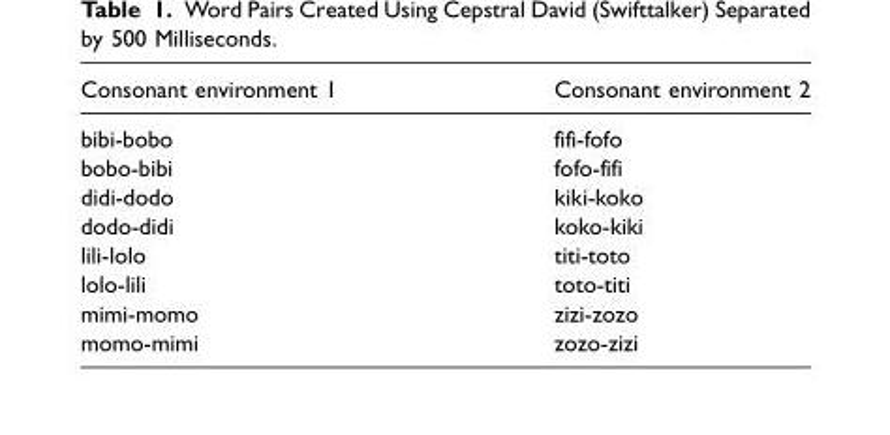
<table><thead><tr><td>Consonant environment 1</td><td>Consonant environment 2</td></tr></thead><tbody><tr><td>bibi-bobo</td><td>fifi-fofo</td></tr><tr><td>bobo-bibi</td><td>fofo-fifi</td></tr><tr><td>didi-dodo</td><td>kiki-koko</td></tr><tr><td>dodo-didi</td><td>koko-kiki</td></tr><tr><td>lili-lolo</td><td>titi-toto</td></tr><tr><td>lolo-lili</td><td>toto-titi</td></tr><tr><td>mimi-momo</td><td>zizi-zozo</td></tr><tr><td>momo-mimi</td><td>zozo-zizi</td></tr></tbody></table>